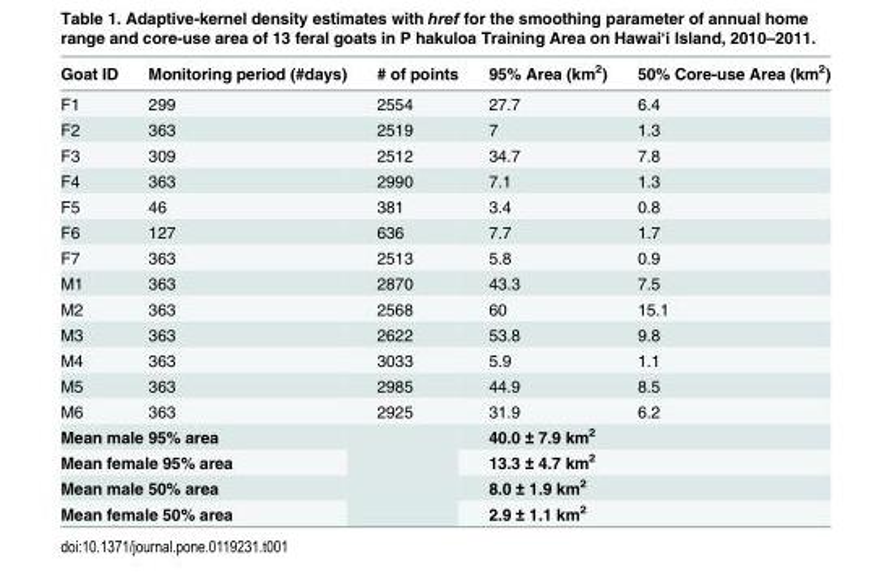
<table><thead><tr><td>Goat ID</td><td>Monitoring period (#days)</td><td># of points</td><td>95% Area (km<sup>2</sup>)</td><td>50% Core-use Area (km<sup>2</sup>)</td></tr></thead><tbody><tr><td>F1</td><td>299</td><td>2554</td><td>27.7</td><td>6.4</td></tr><tr><td>F2</td><td>363</td><td>2519</td><td>7</td><td>1.3</td></tr><tr><td>F3</td><td>309</td><td>2512</td><td>34.7</td><td>7.8</td></tr><tr><td>F4</td><td>363</td><td>2990</td><td>7.1</td><td>1.3</td></tr><tr><td>F5</td><td>46</td><td>381</td><td>3.4</td><td>0.8</td></tr><tr><td>F6</td><td>127</td><td>636</td><td>7.7</td><td>1.7</td></tr><tr><td>F7</td><td>363</td><td>2513</td><td>5.8</td><td>0.9</td></tr><tr><td>M1</td><td>363</td><td>2870</td><td>43.3</td><td>7.5</td></tr><tr><td>M2</td><td>363</td><td>2568</td><td>60</td><td>15.1</td></tr><tr><td>M3</td><td>363</td><td>2622</td><td>53.8</td><td>9.8</td></tr><tr><td>M4</td><td>363</td><td>3033</td><td>5.9</td><td>1.1</td></tr><tr><td>M5</td><td>363</td><td>2985</td><td>44.9</td><td>8.5</td></tr><tr><td>M6</td><td>363</td><td>2925</td><td>31.9</td><td>6.2</td></tr><tr><td colspan="2">Mean male 95% area</td><td rowspan="4"></td><td colspan="2">40.0 ± 7.9 km<sup>2</sup></td></tr><tr><td colspan="2">Mean female 95% area</td><td colspan="2">13.3 ± 4.7 km<sup>2</sup></td></tr><tr><td colspan="2">Mean male 50% area</td><td colspan="2">8.0 ± 1.9 km<sup>2</sup></td></tr><tr><td colspan="2">Mean female 50% area</td><td colspan="2">2.9 ± 1.1 km<sup>2</sup></td></tr></tbody></table>